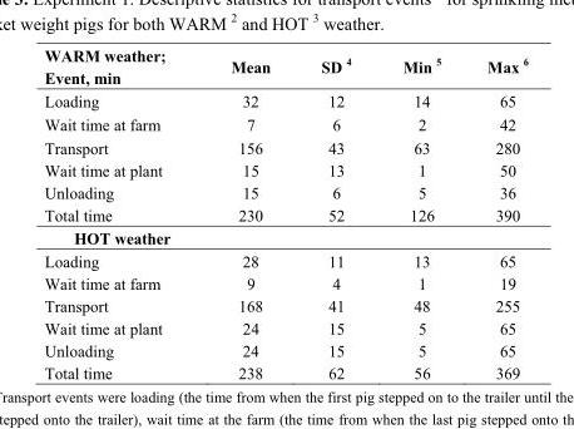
<table><thead><tr><td>WARM weather; Event, min</td><td>Mean</td><td>SD <sup>4</sup></td><td>Min <sup>5</sup></td><td>Max <sup>6</sup></td></tr></thead><tbody><tr><td>Loading</td><td>32</td><td>12</td><td>14</td><td>65</td></tr><tr><td>Wait time at farm</td><td>7</td><td>6</td><td>2</td><td>42</td></tr><tr><td>Transport</td><td>156</td><td>43</td><td>63</td><td>280</td></tr><tr><td>Wait time at plant</td><td>15</td><td>13</td><td>1</td><td>50</td></tr><tr><td>Unloading</td><td>15</td><td>6</td><td>5</td><td>36</td></tr><tr><td>Total time</td><td>230</td><td>52</td><td>126</td><td>390</td></tr><tr><td colspan="5">HOT weather</td></tr><tr><td>Loading</td><td>28</td><td>11</td><td>13</td><td>65</td></tr><tr><td>Wait time at farm</td><td>9</td><td>4</td><td>1</td><td>19</td></tr><tr><td>Transport</td><td>168</td><td>41</td><td>48</td><td>255</td></tr><tr><td>Wait time at plant</td><td>24</td><td>15</td><td>5</td><td>65</td></tr><tr><td>Unloading</td><td>24</td><td>15</td><td>5</td><td>65</td></tr><tr><td>Total time</td><td>238</td><td>62</td><td>56</td><td>369</td></tr></tbody></table>